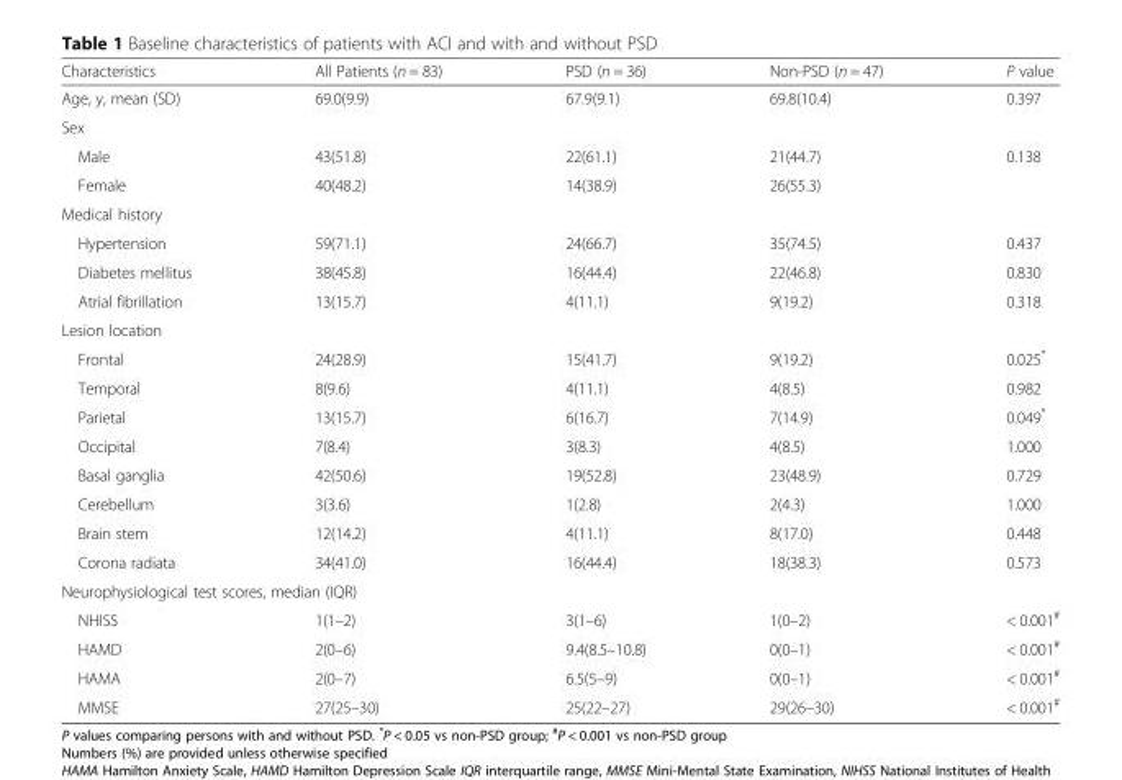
<table><thead><tr><td>Characteristics</td><td>All Patients (n = 83)</td><td>PSD (n = 36)</td><td>Non-PSD (n = 47)</td><td>P value</td></tr></thead><tbody><tr><td>Age, y, mean (SD)</td><td>69.0(9.9)</td><td>67.9(9.1)</td><td>69.8(10.4)</td><td>0.397</td></tr><tr><td colspan="5">Sex</td></tr><tr><td>Male</td><td>43(51.8)</td><td>22(61.1)</td><td>21(44.7)</td><td>0.138</td></tr><tr><td>Female</td><td>40(48.2)</td><td>14(38.9)</td><td>26(55.3)</td><td></td></tr><tr><td colspan="5">Medical history</td></tr><tr><td>Hypertension</td><td>59(71.1)</td><td>24(66.7)</td><td>35(74.5)</td><td>0.437</td></tr><tr><td>Diabetes mellitus</td><td>38(45.8)</td><td>16(44.4)</td><td>22(46.8)</td><td>0.830</td></tr><tr><td>Atrial fibrillation</td><td>13(15.7)</td><td>4(11.1)</td><td>9(19.2)</td><td>0.318</td></tr><tr><td colspan="5">Lesion location</td></tr><tr><td>Frontal</td><td>24(28.9)</td><td>15(41.7)</td><td>9(19.2)</td><td>0.025*</td></tr><tr><td>Temporal</td><td>8(9.6)</td><td>4(11.1)</td><td>4(8.5)</td><td>0.982</td></tr><tr><td>Parietal</td><td>13(15.7)</td><td>6(16.7)</td><td>7(14.9)</td><td>0.049*</td></tr><tr><td>Occipital</td><td>7(8.4)</td><td>3(8.3)</td><td>4(8.5)</td><td>1.000</td></tr><tr><td>Basal ganglia</td><td>42(50.6)</td><td>19(52.8)</td><td>23(48.9)</td><td>0.729</td></tr><tr><td>Cerebellum</td><td>3(3.6)</td><td>1(2.8)</td><td>2(4.3)</td><td>1.000</td></tr><tr><td>Brain stem</td><td>12(14.2)</td><td>4(11.1)</td><td>8(17.0)</td><td>0.448</td></tr><tr><td>Corona radiata</td><td>34(41.0)</td><td>16(44.4)</td><td>18(38.3)</td><td>0.573</td></tr><tr><td colspan="5">Neurophysiological test scores, median (IQR)</td></tr><tr><td>NHISS</td><td>1(1–2)</td><td>3(1–6)</td><td>1(0–2)</td><td>&lt; 0.001<sup>#</sup></td></tr><tr><td>HAMD</td><td>2(0–6)</td><td>9.4(8.5–10.8)</td><td>0(0–1)</td><td>&lt; 0.001<sup>#</sup></td></tr><tr><td>HAMA</td><td>2(0–7)</td><td>6.5(5–9)</td><td>0(0–1)</td><td>&lt; 0.001<sup>#</sup></td></tr><tr><td>MMSE</td><td>27(25–30)</td><td>25(22–27)</td><td>29(26–30)</td><td>&lt; 0.001<sup>#</sup></td></tr></tbody></table>